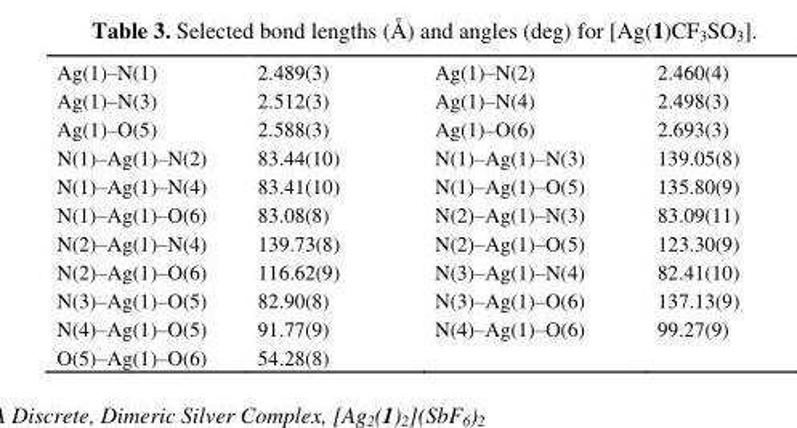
<table><tbody><tr><td>Ag(1)–N(1)</td><td>2.489(3)</td><td>Ag(1)–N(2)</td><td>2.460(4)</td></tr><tr><td>Ag(1)–N(3)</td><td>2.512(3)</td><td>Ag(1)–N(4)</td><td>2.498(3)</td></tr><tr><td>Ag(1)–O(5)</td><td>2.588(3)</td><td>Ag(1)–O(6)</td><td>2.693(3)</td></tr><tr><td>N(1)–Ag(1)–N(2)</td><td>83.44(10)</td><td>N(1)–Ag(1)–N(3)</td><td>139.05(8)</td></tr><tr><td>N(1)–Ag(1)–N(4)</td><td>83.41(10)</td><td>N(1)–Ag(1)–O(5)</td><td>135.80(9)</td></tr><tr><td>N(1)–Ag(1)–O(6)</td><td>83.08(8)</td><td>N(2)–Ag(1)–N(3)</td><td>83.09(11)</td></tr><tr><td>N(2)–Ag(1)–N(4)</td><td>139.73(8)</td><td>N(2)–Ag(1)–O(5)</td><td>123.30(9)</td></tr><tr><td>N(2)–Ag(1)–O(6)</td><td>116.62(9)</td><td>N(3)–Ag(1)–N(4)</td><td>82.41(10)</td></tr><tr><td>N(3)–Ag(1)–O(5)</td><td>82.90(8)</td><td>N(3)–Ag(1)–O(6)</td><td>137.13(9)</td></tr><tr><td>N(4)–Ag(1)–O(5)</td><td>91.77(9)</td><td>N(4)–Ag(1)–O(6)</td><td>99.27(9)</td></tr><tr><td>O(5)–Ag(1)–O(6)</td><td>54.28(8)</td><td></td><td></td></tr></tbody></table>